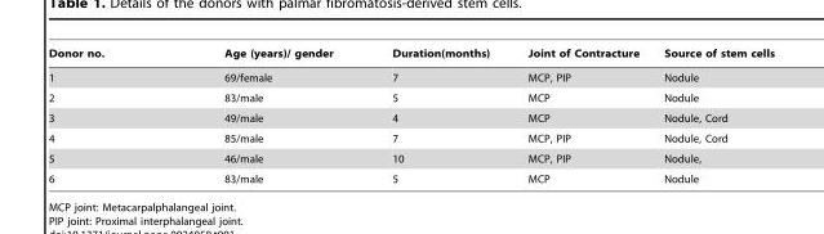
<table><thead><tr><td>Donor no.</td><td>Age (years)/ gender</td><td>Duration(months)</td><td>Joint of Contracture</td><td>Source of stem cells</td></tr></thead><tbody><tr><td>1</td><td>69/female</td><td>7</td><td>MCP, PIP</td><td>Nodule</td></tr><tr><td>2</td><td>83/male</td><td>5</td><td>MCP</td><td>Nodule</td></tr><tr><td>3</td><td>49/male</td><td>4</td><td>MCP</td><td>Nodule, Cord</td></tr><tr><td>4</td><td>85/male</td><td>7</td><td>MCP, PIP</td><td>Nodule, Cord</td></tr><tr><td>5</td><td>46/male</td><td>10</td><td>MCP, PIP</td><td>Nodule,</td></tr><tr><td>6</td><td>83/male</td><td>5</td><td>MCP</td><td>Nodule</td></tr></tbody></table>